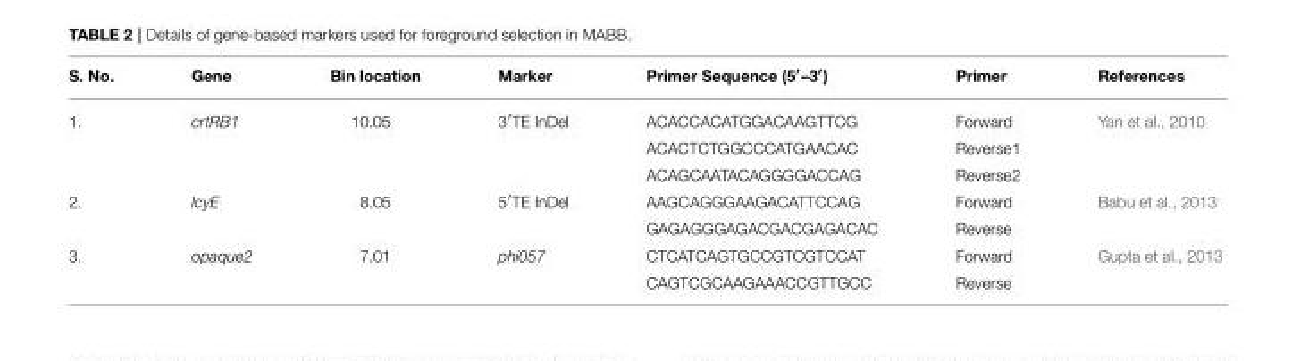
<table><thead><tr><td>S. No.</td><td>Gene</td><td>Bin location</td><td>Marker</td><td>Primer Sequence (5′–3′)</td><td>Primer</td><td>References</td></tr></thead><tbody><tr><td rowspan="3">1.</td><td>crtRB1</td><td>10.05</td><td>3′TE InDel</td><td>ACACCACATGGACAAGTTCG</td><td>Forward</td><td>Yan et al., 2010</td></tr><tr><td></td><td></td><td></td><td>ACACTCTGGCCCATGAACAC</td><td>Reverse1</td><td></td></tr><tr><td></td><td></td><td></td><td>ACAGCAATACAGGGGACCAG</td><td>Reverse2</td><td></td></tr><tr><td rowspan="2">2.</td><td>lcyE</td><td>8.05</td><td>5′TE InDel</td><td>AAGCAGGGAAGACATTCCAG</td><td>Forward</td><td>Babu et al., 2013</td></tr><tr><td></td><td></td><td></td><td>GAGAGGGAGACGACGAGACAC</td><td>Reverse</td><td></td></tr><tr><td rowspan="2">3.</td><td>opaque2</td><td>7.01</td><td>phi057</td><td>CTCATCAGTGCCGTCGTCCAT</td><td>Forward</td><td>Gupta et al., 2013</td></tr><tr><td></td><td></td><td></td><td>CAGTCGCAAGAAACCGTTGCC</td><td>Reverse</td><td></td></tr></tbody></table>